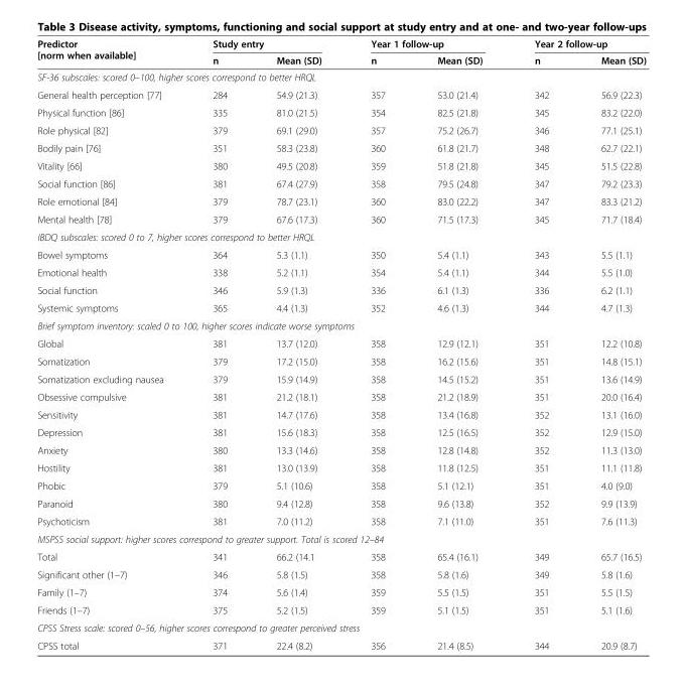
<table><thead><tr><td rowspan="2">Predictor [norm when available]</td><td colspan="2">Study entry</td><td colspan="2">Year 1 follow-up</td><td colspan="2">Year 2 follow-up</td></tr><tr><td>n</td><td>Mean (SD)</td><td>n</td><td>Mean (SD)</td><td>n</td><td>Mean (SD)</td></tr></thead><tbody><tr><td colspan="7">SF-36 subscales: scored 0–100, higher scores correspond to better HRQL</td></tr><tr><td>General health perception [77]</td><td>284</td><td>54.9 (21.3)</td><td>357</td><td>53.0 (21.4)</td><td>342</td><td>56.9 (22.3)</td></tr><tr><td>Physical function [86]</td><td>335</td><td>81.0 (21.5)</td><td>354</td><td>82.5 (21.8)</td><td>345</td><td>83.2 (22.0)</td></tr><tr><td>Role physical [82]</td><td>379</td><td>69.1 (29.0)</td><td>357</td><td>75.2 (26.7)</td><td>346</td><td>77.1 (25.1)</td></tr><tr><td>Bodily pain [76]</td><td>351</td><td>58.3 (23.8)</td><td>360</td><td>61.8 (21.7)</td><td>348</td><td>62.7 (22.1)</td></tr><tr><td>Vitality [66]</td><td>380</td><td>49.5 (20.8)</td><td>359</td><td>51.8 (21.8)</td><td>345</td><td>51.5 (22.8)</td></tr><tr><td>Social function [86]</td><td>381</td><td>67.4 (27.9)</td><td>358</td><td>79.5 (24.8)</td><td>347</td><td>79.2 (23.3)</td></tr><tr><td>Role emotional [84]</td><td>379</td><td>78.7 (23.1)</td><td>360</td><td>83.0 (22.2)</td><td>347</td><td>83.3 (21.2)</td></tr><tr><td>Mental health [78]</td><td>379</td><td>67.6 (17.3)</td><td>360</td><td>71.5 (17.3)</td><td>345</td><td>71.7 (18.4)</td></tr><tr><td colspan="7">IBDQ subscales: scored 0 to 7, higher scores correspond to better HRQL</td></tr><tr><td>Bowel symptoms</td><td>364</td><td>5.3 (1.1)</td><td>350</td><td>5.4 (1.1)</td><td>343</td><td>5.5 (1.1)</td></tr><tr><td>Emotional health</td><td>338</td><td>5.2 (1.1)</td><td>354</td><td>5.4 (1.1)</td><td>344</td><td>5.5 (1.0)</td></tr><tr><td>Social function</td><td>346</td><td>5.9 (1.3)</td><td>336</td><td>6.1 (1.3)</td><td>336</td><td>6.2 (1.1)</td></tr><tr><td>Systemic symptoms</td><td>365</td><td>4.4 (1.3)</td><td>352</td><td>4.6 (1.3)</td><td>344</td><td>4.7 (1.3)</td></tr><tr><td colspan="7">Brief symptom inventory: scaled 0 to 100, higher scores indicate worse symptoms</td></tr><tr><td>Global</td><td>381</td><td>13.7 (12.0)</td><td>358</td><td>12.9 (12.1)</td><td>351</td><td>12.2 (10.8)</td></tr><tr><td>Somatization</td><td>379</td><td>17.2 (15.0)</td><td>358</td><td>16.2 (15.6)</td><td>351</td><td>14.8 (15.1)</td></tr><tr><td>Somatization excluding nausea</td><td>379</td><td>15.9 (14.9)</td><td>358</td><td>14.5 (15.2)</td><td>351</td><td>13.6 (14.9)</td></tr><tr><td>Obsessive compulsive</td><td>381</td><td>21.2 (18.1)</td><td>358</td><td>21.2 (18.9)</td><td>351</td><td>20.0 (16.4)</td></tr><tr><td>Sensitivity</td><td>381</td><td>14.7 (17.6)</td><td>358</td><td>13.4 (16.8)</td><td>352</td><td>13.1 (16.0)</td></tr><tr><td>Depression</td><td>381</td><td>15.6 (18.3)</td><td>358</td><td>12.5 (16.5)</td><td>352</td><td>12.9 (15.0)</td></tr><tr><td>Anxiety</td><td>380</td><td>13.3 (14.6)</td><td>358</td><td>12.8 (14.8)</td><td>352</td><td>11.3 (13.0)</td></tr><tr><td>Hostility</td><td>381</td><td>13.0 (13.9)</td><td>358</td><td>11.8 (12.5)</td><td>351</td><td>11.1 (11.8)</td></tr><tr><td>Phobic</td><td>379</td><td>5.1 (10.6)</td><td>358</td><td>5.1 (12.1)</td><td>351</td><td>4.0 (9.0)</td></tr><tr><td>Paranoid</td><td>380</td><td>9.4 (12.8)</td><td>358</td><td>9.6 (13.8)</td><td>352</td><td>9.9 (13.9)</td></tr><tr><td>Psychoticism</td><td>381</td><td>7.0 (11.2)</td><td>358</td><td>7.1 (11.0)</td><td>351</td><td>7.6 (11.3)</td></tr><tr><td colspan="7">MSPSS social support: higher scores correspond to greater support. Total is scored 12–84</td></tr><tr><td>Total</td><td>341</td><td>66.2 (14.1</td><td>358</td><td>65.4 (16.1)</td><td>349</td><td>65.7 (16.5)</td></tr><tr><td>Significant other (1–7)</td><td>346</td><td>5.8 (1.5)</td><td>358</td><td>5.8 (1.6)</td><td>349</td><td>5.8 (1.6)</td></tr><tr><td>Family (1–7)</td><td>374</td><td>5.6 (1.4)</td><td>359</td><td>5.5 (1.5)</td><td>351</td><td>5.5 (1.5)</td></tr><tr><td>Friends (1–7)</td><td>375</td><td>5.2 (1.5)</td><td>359</td><td>5.1 (1.5)</td><td>351</td><td>5.1 (1.6)</td></tr><tr><td colspan="7">CPSS Stress scale: scored 0–56, higher scores correspond to greater perceived stress</td></tr><tr><td>CPSS total</td><td>371</td><td>22.4 (8.2)</td><td>356</td><td>21.4 (8.5)</td><td>344</td><td>20.9 (8.7)</td></tr></tbody></table>